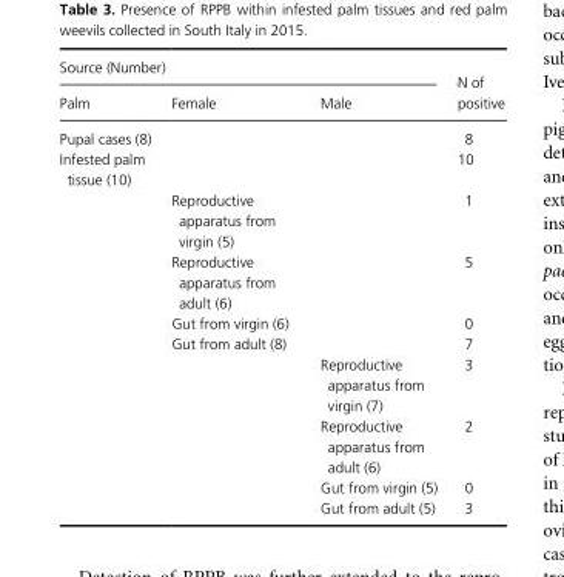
<table><thead><tr><td colspan="3">Source (Number)</td><td rowspan="2">N of positive</td></tr><tr><td>Palm</td><td>Female</td><td>Male</td></tr></thead><tbody><tr><td>Pupal cases (8)</td><td></td><td></td><td>8</td></tr><tr><td rowspan="9">Infested palm tissue (10)</td><td></td><td></td><td>10</td></tr><tr><td>Reproductive apparatus from virgin (5)</td><td></td><td>1</td></tr><tr><td>Reproductive apparatus from adult (6)</td><td></td><td>5</td></tr><tr><td>Gut from virgin (6)</td><td></td><td>0</td></tr><tr><td>Gut from adult (8)</td><td></td><td>7</td></tr><tr><td></td><td>Reproductive apparatus from virgin (7)</td><td>3</td></tr><tr><td></td><td>Reproductive apparatus from adult (6)</td><td>2</td></tr><tr><td></td><td>Gut from virgin (5)</td><td>0</td></tr><tr><td></td><td>Gut from adult (5)</td><td>3</td></tr></tbody></table>